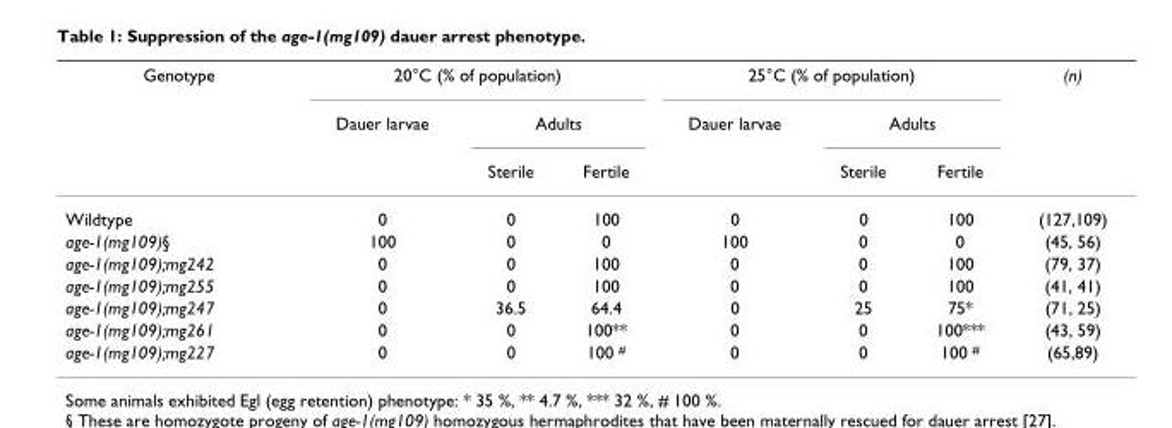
<table><thead><tr><td rowspan="3">Genotype</td><td colspan="3">20°C (% of population)</td><td colspan="3">25°C (% of population)</td><td rowspan="3">(n)</td></tr><tr><td rowspan="2">Dauer larvae</td><td colspan="2">Adults</td><td rowspan="2">Dauer larvae</td><td colspan="2">Adults</td></tr><tr><td>Sterile</td><td>Fertile</td><td>Sterile</td><td>Fertile</td></tr></thead><tbody><tr><td>Wildtype</td><td>0</td><td>0</td><td>100</td><td>0</td><td>0</td><td>100</td><td>(127,109)</td></tr><tr><td>age-1(mg109)§</td><td>100</td><td>0</td><td>0</td><td>100</td><td>0</td><td>0</td><td>(45, 56)</td></tr><tr><td>age-1(mg109);mg242</td><td>0</td><td>0</td><td>100</td><td>0</td><td>0</td><td>100</td><td>(79, 37)</td></tr><tr><td>age-1(mg109);mg255</td><td>0</td><td>0</td><td>100</td><td>0</td><td>0</td><td>100</td><td>(41, 41)</td></tr><tr><td>age-1(mg109);mg247</td><td>0</td><td>36.5</td><td>64.4</td><td>0</td><td>25</td><td>75*</td><td>(71, 25)</td></tr><tr><td>age-1(mg109);mg261</td><td>0</td><td>0</td><td>100**</td><td>0</td><td>0</td><td>100***</td><td>(43, 59)</td></tr><tr><td>age-1(mg109);mg227</td><td>0</td><td>0</td><td>100 <sup>#</sup></td><td>0</td><td>0</td><td>100 <sup>#</sup></td><td>(65,89)</td></tr></tbody></table>